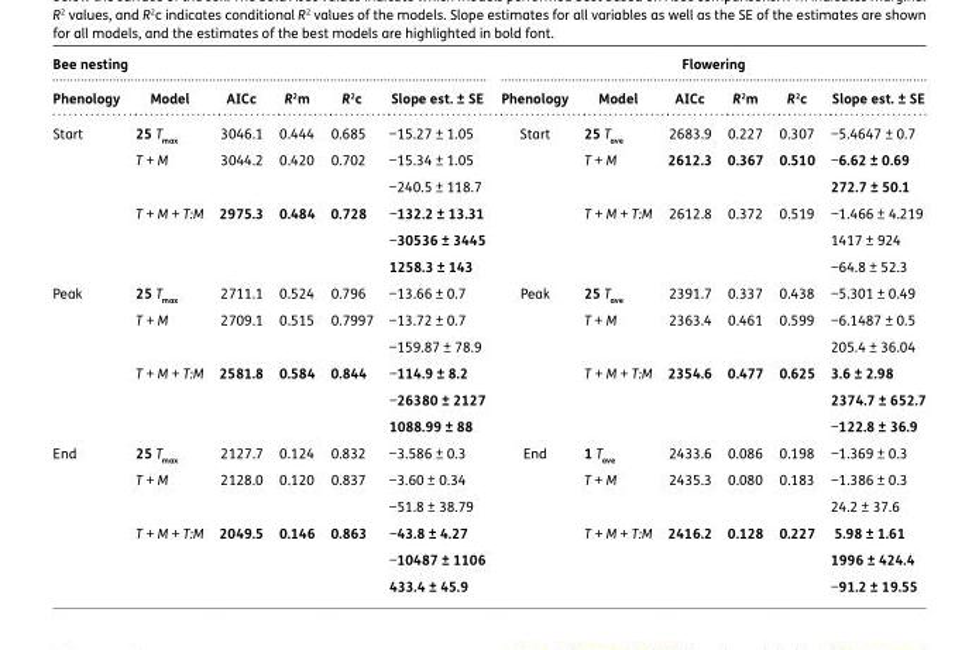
<table><thead><tr><td colspan="6">Bee nesting</td><td colspan="6">Flowering</td></tr><tr><td>Phenology</td><td>Model</td><td>AICc</td><td>R<sup>2</sup>m</td><td>R<sup>2</sup>c</td><td>Slope est. ± SE</td><td>Phenology</td><td>Model</td><td>AICc</td><td>R<sup>2</sup>m</td><td>R<sup>2</sup>c</td><td>Slope est. ± SE</td></tr></thead><tbody><tr><td rowspan="3">Start</td><td>25 T<sub>max</sub></td><td>3046.1</td><td>0.444</td><td>0.685</td><td>−15.27 ± 1.05</td><td rowspan="3">Start</td><td>25 T<sub>ave</sub></td><td>2683.9</td><td>0.227</td><td>0.307</td><td>−5.4647 ± 0.7</td></tr><tr><td>T + M</td><td>3044.2</td><td>0.420</td><td>0.702</td><td>−15.34 ± 1.05 −240.5 ± 118.7</td><td>T + M</td><td>2612.3</td><td>0.367</td><td>0.510</td><td>−6.62 ± 0.69 272.7 ± 50.1</td></tr><tr><td>T + M + T:M</td><td>2975.3</td><td>0.484</td><td>0.728</td><td>−132.2 ± 13.31 −30536 ± 3445 1258.3 ± 143</td><td>T + M + T:M</td><td>2612.8</td><td>0.372</td><td>0.519</td><td>−1.466 ± 4.219 1417 ± 924 −64.8 ± 52.3</td></tr><tr><td rowspan="3">Peak</td><td>25 T<sub>max</sub></td><td>2711.1</td><td>0.524</td><td>0.796</td><td>−13.66 ± 0.7</td><td rowspan="3">Peak</td><td>25 T<sub>ave</sub></td><td>2391.7</td><td>0.337</td><td>0.438</td><td>−5.301 ± 0.49</td></tr><tr><td>T + M</td><td>2709.1</td><td>0.515</td><td>0.7997</td><td>−13.72 ± 0.7 −159.87 ± 78.9</td><td>T + M</td><td>2363.4</td><td>0.461</td><td>0.599</td><td>−6.1487 ± 0.5 205.4 ± 36.04</td></tr><tr><td>T + M + T:M</td><td>2581.8</td><td>0.584</td><td>0.844</td><td>−114.9 ± 8.2 −26380 ± 2127 1088.99 ± 88</td><td>T + M + T:M</td><td>2354.6</td><td>0.477</td><td>0.625</td><td>3.6 ± 2.98 2374.7 ± 652.7 −122.8 ± 36.9</td></tr><tr><td rowspan="3">End</td><td>25 T<sub>max</sub></td><td>2127.7</td><td>0.124</td><td>0.832</td><td>−3.586 ± 0.3</td><td rowspan="3">End</td><td>1 T<sub>ave</sub></td><td>2433.6</td><td>0.086</td><td>0.198</td><td>−1.369 ± 0.3</td></tr><tr><td>T + M</td><td>2128.0</td><td>0.120</td><td>0.837</td><td>−3.60 ± 0.34 −51.8 ± 38.79</td><td>T + M</td><td>2435.3</td><td>0.080</td><td>0.183</td><td>−1.386 ± 0.3 24.2 ± 37.6</td></tr><tr><td>T + M + T:M</td><td>2049.5</td><td>0.146</td><td>0.863</td><td>−43.8 ± 4.27 −10487 ± 1106 433.4 ± 45.9</td><td>T + M + T:M</td><td>2416.2</td><td>0.128</td><td>0.227</td><td>5.98 ± 1.61 1996 ± 424.4 −91.2 ± 19.55</td></tr></tbody></table>